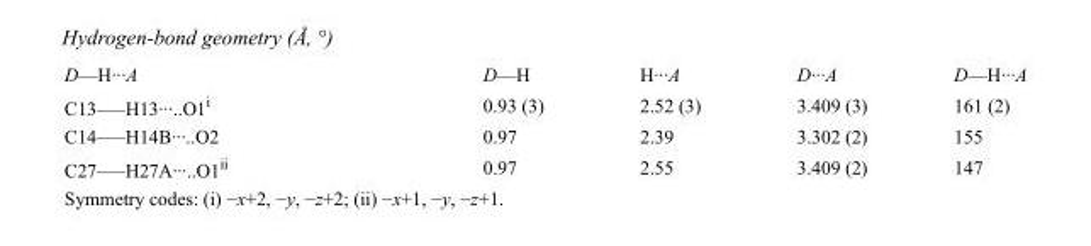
<table><tbody><tr><td>D—H···A</td><td>D—H</td><td>H···A</td><td>D···A</td><td>D—H···A</td></tr><tr><td>C13—–H13···..O1<sup>i</sup></td><td>0.93 (3)</td><td>2.52 (3)</td><td>3.409 (3)</td><td>161 (2)</td></tr><tr><td>C14—–H14B···..O2</td><td>0.97</td><td>2.39</td><td>3.302 (2)</td><td>155</td></tr><tr><td>C27—–H27A···..O1<sup>ii</sup></td><td>0.97</td><td>2.55</td><td>3.409 (2)</td><td>147</td></tr></tbody></table>